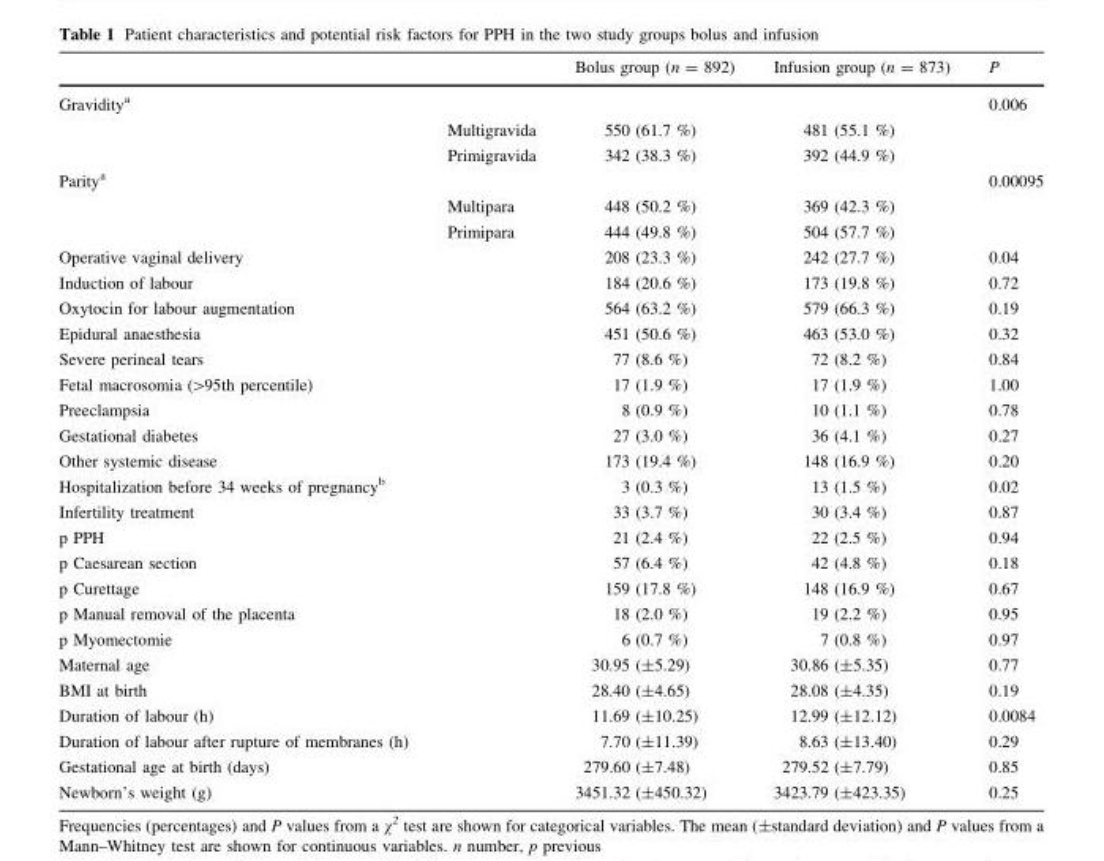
<table><thead><tr><td></td><td></td><td>Bolus group (n = 892)</td><td>Infusion group (n = 873)</td><td>P</td></tr></thead><tbody><tr><td rowspan="3">Gravidity<sup>a</sup></td><td></td><td></td><td></td><td>0.006</td></tr><tr><td>Multigravida</td><td>550 (61.7 %)</td><td>481 (55.1 %)</td><td></td></tr><tr><td>Primigravida</td><td>342 (38.3 %)</td><td>392 (44.9 %)</td><td></td></tr><tr><td rowspan="3">Parity<sup>a</sup></td><td></td><td></td><td></td><td>0.00095</td></tr><tr><td>Multipara</td><td>448 (50.2 %)</td><td>369 (42.3 %)</td><td></td></tr><tr><td>Primipara</td><td>444 (49.8 %)</td><td>504 (57.7 %)</td><td></td></tr><tr><td>Operative vaginal delivery</td><td></td><td>208 (23.3 %)</td><td>242 (27.7 %)</td><td>0.04</td></tr><tr><td>Induction of labour</td><td></td><td>184 (20.6 %)</td><td>173 (19.8 %)</td><td>0.72</td></tr><tr><td>Oxytocin for labour augmentation</td><td></td><td>564 (63.2 %)</td><td>579 (66.3 %)</td><td>0.19</td></tr><tr><td>Epidural anaesthesia</td><td></td><td>451 (50.6 %)</td><td>463 (53.0 %)</td><td>0.32</td></tr><tr><td>Severe perineal tears</td><td></td><td>77 (8.6 %)</td><td>72 (8.2 %)</td><td>0.84</td></tr><tr><td>Fetal macrosomia (&gt;95th percentile)</td><td></td><td>17 (1.9 %)</td><td>17 (1.9 %)</td><td>1.00</td></tr><tr><td>Preeclampsia</td><td></td><td>8 (0.9 %)</td><td>10 (1.1 %)</td><td>0.78</td></tr><tr><td>Gestational diabetes</td><td></td><td>27 (3.0 %)</td><td>36 (4.1 %)</td><td>0.27</td></tr><tr><td>Other systemic disease</td><td></td><td>173 (19.4 %)</td><td>148 (16.9 %)</td><td>0.20</td></tr><tr><td>Hospitalization before 34 weeks of pregnancy<sup>b</sup></td><td></td><td>3 (0.3 %)</td><td>13 (1.5 %)</td><td>0.02</td></tr><tr><td>Infertility treatment</td><td></td><td>33 (3.7 %)</td><td>30 (3.4 %)</td><td>0.87</td></tr><tr><td>p PPH</td><td></td><td>21 (2.4 %)</td><td>22 (2.5 %)</td><td>0.94</td></tr><tr><td>p Caesarean section</td><td></td><td>57 (6.4 %)</td><td>42 (4.8 %)</td><td>0.18</td></tr><tr><td>p Curettage</td><td></td><td>159 (17.8 %)</td><td>148 (16.9 %)</td><td>0.67</td></tr><tr><td>p Manual removal of the placenta</td><td></td><td>18 (2.0 %)</td><td>19 (2.2 %)</td><td>0.95</td></tr><tr><td>p Myomectomie</td><td></td><td>6 (0.7 %)</td><td>7 (0.8 %)</td><td>0.97</td></tr><tr><td>Maternal age</td><td></td><td>30.95 (±5.29)</td><td>30.86 (±5.35)</td><td>0.77</td></tr><tr><td>BMI at birth</td><td></td><td>28.40 (±4.65)</td><td>28.08 (±4.35)</td><td>0.19</td></tr><tr><td>Duration of labour (h)</td><td></td><td>11.69 (±10.25)</td><td>12.99 (±12.12)</td><td>0.0084</td></tr><tr><td>Duration of labour after rupture of membranes (h)</td><td></td><td>7.70 (±11.39)</td><td>8.63 (±13.40)</td><td>0.29</td></tr><tr><td>Gestational age at birth (days)</td><td></td><td>279.60 (±7.48)</td><td>279.52 (±7.79)</td><td>0.85</td></tr><tr><td>Newborn’s weight (g)</td><td></td><td>3451.32 (±450.32)</td><td>3423.79 (±423.35)</td><td>0.25</td></tr></tbody></table>